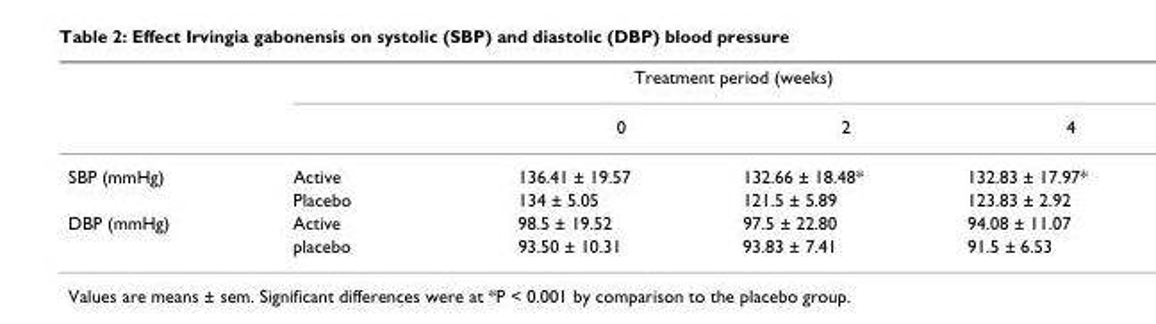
<table><thead><tr><td rowspan="2"></td><td colspan="4">Treatment period (weeks)</td></tr><tr><td></td><td>0</td><td>2</td><td>4</td></tr></thead><tbody><tr><td rowspan="2">SBP (mmHg)</td><td>Active</td><td>136.41 ± 19.57</td><td>132.66 ± 18.48*</td><td>132.83 ± 17.97*</td></tr><tr><td>Placebo</td><td>134 ± 5.05</td><td>121.5 ± 5.89</td><td>123.83 ± 2.92</td></tr><tr><td rowspan="2">DBP (mmHg)</td><td>Active</td><td>98.5 ± 19.52</td><td>97.5 ± 22.80</td><td>94.08 ± 11.07</td></tr><tr><td>placebo</td><td>93.50 ± 10.31</td><td>93.83 ± 7.41</td><td>91.5 ± 6.53</td></tr></tbody></table>